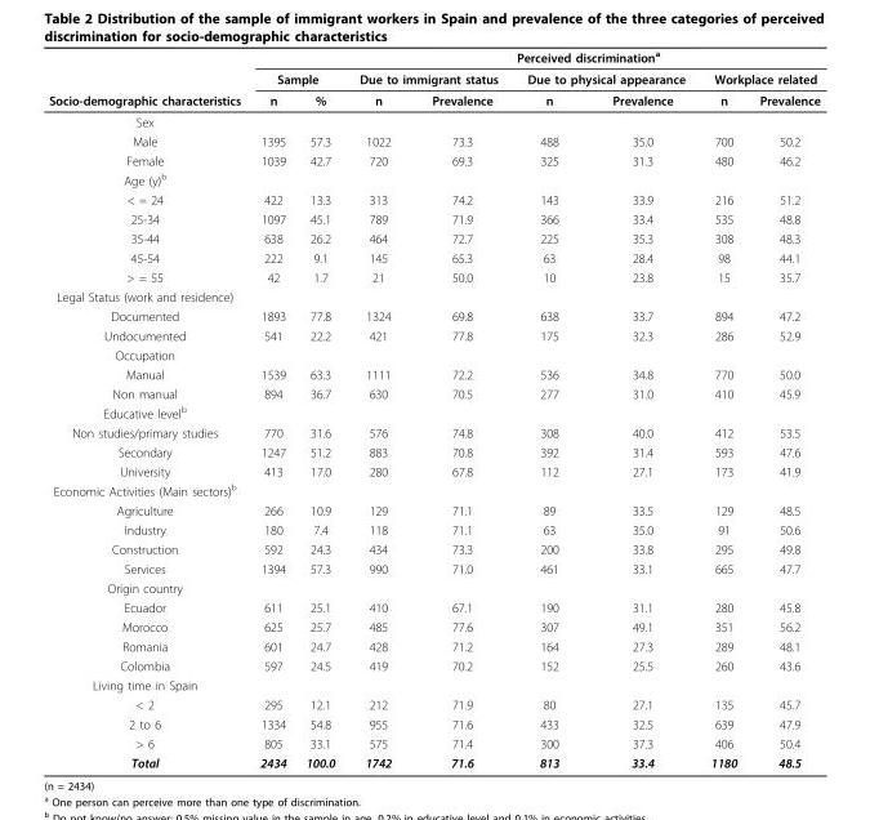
<table><thead><tr><td rowspan="3">Socio-demographic characteristics</td><td></td><td></td><td colspan="6">Perceived discrimination<sup>a</sup></td></tr><tr><td colspan="2">Sample</td><td colspan="2">Due to immigrant status</td><td colspan="2">Due to physical appearance</td><td colspan="2">Workplace related</td></tr><tr><td>n</td><td>%</td><td>n</td><td>Prevalence</td><td>n</td><td>Prevalence</td><td>n</td><td>Prevalence</td></tr></thead><tbody><tr><td colspan="9">Sex</td></tr><tr><td>Male</td><td>1395</td><td>57.3</td><td>1022</td><td>73.3</td><td>488</td><td>35.0</td><td>700</td><td>50.2</td></tr><tr><td>Female</td><td>1039</td><td>42.7</td><td>720</td><td>69.3</td><td>325</td><td>31.3</td><td>480</td><td>46.2</td></tr><tr><td colspan="9">Age (y)<sup>b</sup></td></tr><tr><td>&lt; = 24</td><td>422</td><td>13.3</td><td>313</td><td>74.2</td><td>143</td><td>33.9</td><td>216</td><td>51.2</td></tr><tr><td>25-34</td><td>1097</td><td>45.1</td><td>789</td><td>71.9</td><td>366</td><td>33.4</td><td>535</td><td>48.8</td></tr><tr><td>35-44</td><td>638</td><td>26.2</td><td>464</td><td>72.7</td><td>225</td><td>35.3</td><td>308</td><td>48.3</td></tr><tr><td>45-54</td><td>222</td><td>9.1</td><td>145</td><td>65.3</td><td>63</td><td>28.4</td><td>98</td><td>44.1</td></tr><tr><td>&gt; = 55</td><td>42</td><td>1.7</td><td>21</td><td>50.0</td><td>10</td><td>23.8</td><td>15</td><td>35.7</td></tr><tr><td colspan="9">Legal Status (work and residence)</td></tr><tr><td>Documented</td><td>1893</td><td>77.8</td><td>1324</td><td>69.8</td><td>638</td><td>33.7</td><td>894</td><td>47.2</td></tr><tr><td>Undocumented</td><td>541</td><td>22.2</td><td>421</td><td>77.8</td><td>175</td><td>32.3</td><td>286</td><td>52.9</td></tr><tr><td colspan="9">Occupation</td></tr><tr><td>Manual</td><td>1539</td><td>63.3</td><td>1111</td><td>72.2</td><td>536</td><td>34.8</td><td>770</td><td>50.0</td></tr><tr><td>Non manual</td><td>894</td><td>36.7</td><td>630</td><td>70.5</td><td>277</td><td>31.0</td><td>410</td><td>45.9</td></tr><tr><td colspan="9">Educative level<sup>b</sup></td></tr><tr><td>Non studies/primary studies</td><td>770</td><td>31.6</td><td>576</td><td>74.8</td><td>308</td><td>40.0</td><td>412</td><td>53.5</td></tr><tr><td>Secondary</td><td>1247</td><td>51.2</td><td>883</td><td>70.8</td><td>392</td><td>31.4</td><td>593</td><td>47.6</td></tr><tr><td>University</td><td>413</td><td>17.0</td><td>280</td><td>67.8</td><td>112</td><td>27.1</td><td>173</td><td>41.9</td></tr><tr><td colspan="9">Economic Activities (Main sectors)<sup>b</sup></td></tr><tr><td>Agriculture</td><td>266</td><td>10.9</td><td>129</td><td>71.1</td><td>89</td><td>33.5</td><td>129</td><td>48.5</td></tr><tr><td>Industry</td><td>180</td><td>7.4</td><td>118</td><td>71.1</td><td>63</td><td>35.0</td><td>91</td><td>50.6</td></tr><tr><td>Construction</td><td>592</td><td>24.3</td><td>434</td><td>73.3</td><td>200</td><td>33.8</td><td>295</td><td>49.8</td></tr><tr><td>Services</td><td>1394</td><td>57.3</td><td>990</td><td>71.0</td><td>461</td><td>33.1</td><td>665</td><td>47.7</td></tr><tr><td colspan="9">Origin country</td></tr><tr><td>Ecuador</td><td>611</td><td>25.1</td><td>410</td><td>67.1</td><td>190</td><td>31.1</td><td>280</td><td>45.8</td></tr><tr><td>Morocco</td><td>625</td><td>25.7</td><td>485</td><td>77.6</td><td>307</td><td>49.1</td><td>351</td><td>56.2</td></tr><tr><td>Romania</td><td>601</td><td>24.7</td><td>428</td><td>71.2</td><td>164</td><td>27.3</td><td>289</td><td>48.1</td></tr><tr><td>Colombia</td><td>597</td><td>24.5</td><td>419</td><td>70.2</td><td>152</td><td>25.5</td><td>260</td><td>43.6</td></tr><tr><td colspan="9">Living time in Spain</td></tr><tr><td>&lt; 2</td><td>295</td><td>12.1</td><td>212</td><td>71.9</td><td>80</td><td>27.1</td><td>135</td><td>45.7</td></tr><tr><td>2 to 6</td><td>1334</td><td>54.8</td><td>955</td><td>71.6</td><td>433</td><td>32.5</td><td>639</td><td>47.9</td></tr><tr><td>&gt; 6</td><td>805</td><td>33.1</td><td>575</td><td>71.4</td><td>300</td><td>37.3</td><td>406</td><td>50.4</td></tr><tr><td>Total</td><td>2434</td><td>100.0</td><td>1742</td><td>71.6</td><td>813</td><td>33.4</td><td>1180</td><td>48.5</td></tr></tbody></table>